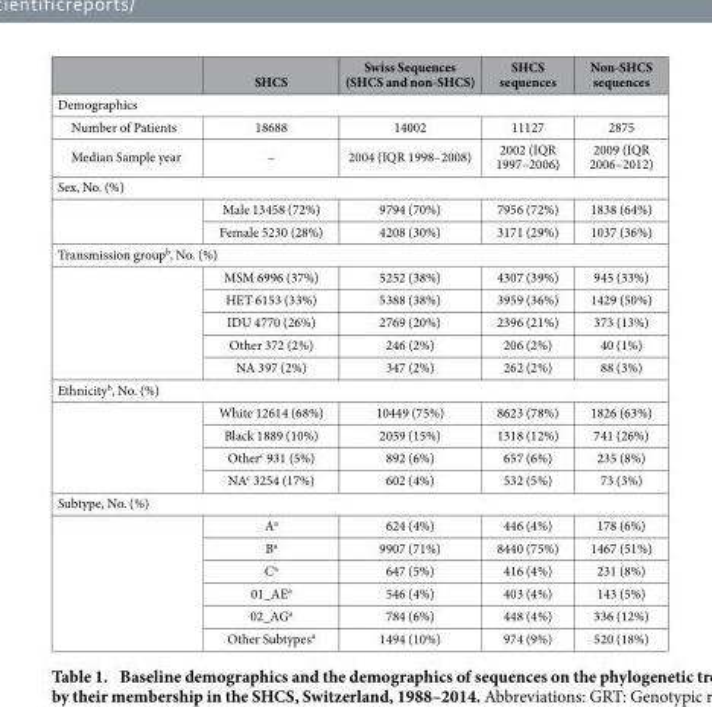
<table><thead><tr><td></td><td>SHCS</td><td>Swiss Sequences (SHCS and non-SHCS)</td><td>SHCS sequences</td><td>Non-SHCS sequences</td></tr></thead><tbody><tr><td colspan="5">Demographics</td></tr><tr><td>Number of Patients</td><td>18688</td><td>14002</td><td>11127</td><td>2875</td></tr><tr><td>Median Sample year</td><td>–</td><td>2004 (IQR 1998–2008)</td><td>2002 (IQR 1997–2006)</td><td>2009 (IQR 2006–2012)</td></tr><tr><td colspan="5">Sex, No. (%)</td></tr><tr><td></td><td>Male 13458 (72%)</td><td>9794 (70%)</td><td>7956 (72%)</td><td>1838 (64%)</td></tr><tr><td></td><td>Female 5230 (28%)</td><td>4208 (30%)</td><td>3171 (29%)</td><td>1037 (36%)</td></tr><tr><td colspan="5">Transmission group<sup>b</sup>, No. (%)</td></tr><tr><td></td><td>MSM 6996 (37%)</td><td>5252 (38%)</td><td>4307 (39%)</td><td>945 (33%)</td></tr><tr><td></td><td>HET 6153 (33%)</td><td>5388 (38%)</td><td>3959 (36%)</td><td>1429 (50%)</td></tr><tr><td></td><td>IDU 4770 (26%)</td><td>2769 (20%)</td><td>2396 (21%)</td><td>373 (13%)</td></tr><tr><td></td><td>Other 372 (2%)</td><td>246 (2%)</td><td>206 (2%)</td><td>40 (1%)</td></tr><tr><td></td><td>NA 397 (2%)</td><td>347 (2%)</td><td>262 (2%)</td><td>88 (3%)</td></tr><tr><td colspan="5">Ethnicity<sup>b</sup>, No. (%)</td></tr><tr><td></td><td>White 12614 (68%)</td><td>10449 (75%)</td><td>8623 (78%)</td><td>1826 (63%)</td></tr><tr><td></td><td>Black 1889 (10%)</td><td>2059 (15%)</td><td>1318 (12%)</td><td>741 (26%)</td></tr><tr><td></td><td>Other<sup>c</sup> 931 (5%)</td><td>892 (6%)</td><td>657 (6%)</td><td>235 (8%)</td></tr><tr><td></td><td>NA<sup>c</sup> 3254 (17%)</td><td>602 (4%)</td><td>532 (5%)</td><td>73 (3%)</td></tr><tr><td colspan="5">Subtype, No. (%)</td></tr><tr><td></td><td>A<sup>a</sup></td><td>624 (4%)</td><td>446 (4%)</td><td>178 (6%)</td></tr><tr><td></td><td>B<sup>a</sup></td><td>9907 (71%)</td><td>8440 (75%)</td><td>1467 (51%)</td></tr><tr><td></td><td>C<sup>a</sup></td><td>647 (5%)</td><td>416 (4%)</td><td>231 (8%)</td></tr><tr><td></td><td>01_AE<sup>a</sup></td><td>546 (4%)</td><td>403 (4%)</td><td>143 (5%)</td></tr><tr><td></td><td>02_AG<sup>a</sup></td><td>784 (6%)</td><td>448 (4%)</td><td>336 (12%)</td></tr><tr><td></td><td>Other Subtypes<sup>a</sup></td><td>1494 (10%)</td><td>974 (9%)</td><td>520 (18%)</td></tr></tbody></table>